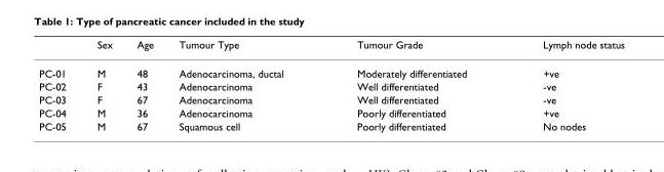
<table><thead><tr><td></td><td>Sex</td><td>Age</td><td>Tumour Type</td><td>Tumour Grade</td><td>Lymph node status</td></tr></thead><tbody><tr><td>PC-01</td><td>M</td><td>48</td><td>Adenocarcinoma, ductal</td><td>Moderately differentiated</td><td>+ve</td></tr><tr><td>PC-02</td><td>F</td><td>43</td><td>Adenocarcinoma</td><td>Well differentiated</td><td>-ve</td></tr><tr><td>PC-03</td><td>F</td><td>67</td><td>Adenocarcinoma</td><td>Well differentiated</td><td>-ve</td></tr><tr><td>PC-04</td><td>M</td><td>36</td><td>Adenocarcinoma</td><td>Poorly differentiated</td><td>+ve</td></tr><tr><td>PC-05</td><td>M</td><td>67</td><td>Squamous cell</td><td>Poorly differentiated</td><td>No nodes</td></tr></tbody></table>